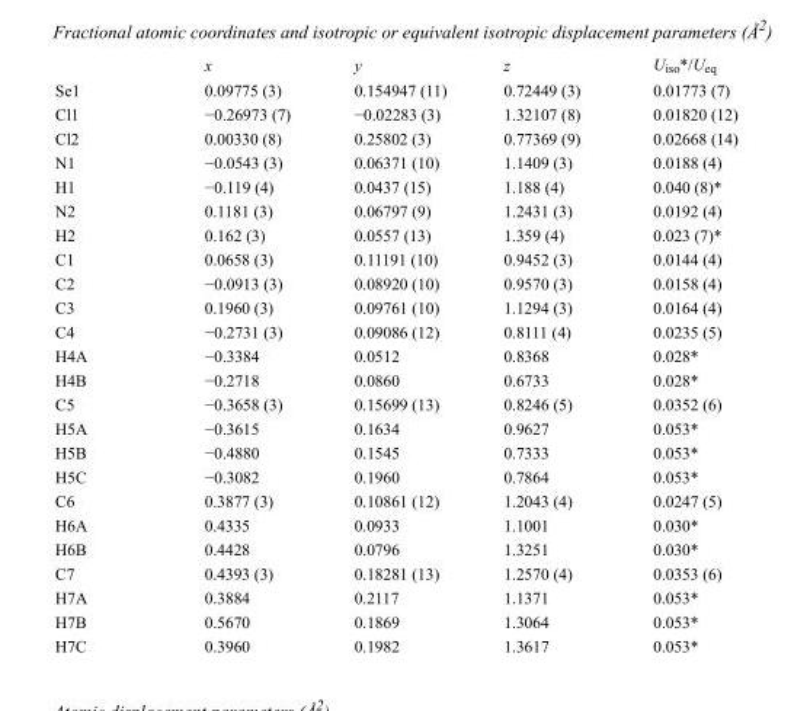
<table><thead><tr><td></td><td>x</td><td>y</td><td>z</td><td>U<sub>iso</sub>*/U<sub>eq</sub></td></tr></thead><tbody><tr><td>Se1</td><td>0.09775 (3)</td><td>0.154947 (11)</td><td>0.72449 (3)</td><td>0.01773 (7)</td></tr><tr><td>Cl1</td><td>−0.26973 (7)</td><td>−0.02283 (3)</td><td>1.32107 (8)</td><td>0.01820 (12)</td></tr><tr><td>Cl2</td><td>0.00330 (8)</td><td>0.25802 (3)</td><td>0.77369 (9)</td><td>0.02668 (14)</td></tr><tr><td>N1</td><td>−0.0543 (3)</td><td>0.06371 (10)</td><td>1.1409 (3)</td><td>0.0188 (4)</td></tr><tr><td>H1</td><td>−0.119 (4)</td><td>0.0437 (15)</td><td>1.188 (4)</td><td>0.040 (8)*</td></tr><tr><td>N2</td><td>0.1181 (3)</td><td>0.06797 (9)</td><td>1.2431 (3)</td><td>0.0192 (4)</td></tr><tr><td>H2</td><td>0.162 (3)</td><td>0.0557 (13)</td><td>1.359 (4)</td><td>0.023 (7)*</td></tr><tr><td>C1</td><td>0.0658 (3)</td><td>0.11191 (10)</td><td>0.9452 (3)</td><td>0.0144 (4)</td></tr><tr><td>C2</td><td>−0.0913 (3)</td><td>0.08920 (10)</td><td>0.9570 (3)</td><td>0.0158 (4)</td></tr><tr><td>C3</td><td>0.1960 (3)</td><td>0.09761 (10)</td><td>1.1294 (3)</td><td>0.0164 (4)</td></tr><tr><td>C4</td><td>−0.2731 (3)</td><td>0.09086 (12)</td><td>0.8111 (4)</td><td>0.0235 (5)</td></tr><tr><td>H4A</td><td>−0.3384</td><td>0.0512</td><td>0.8368</td><td>0.028*</td></tr><tr><td>H4B</td><td>−0.2718</td><td>0.0860</td><td>0.6733</td><td>0.028*</td></tr><tr><td>C5</td><td>−0.3658 (3)</td><td>0.15699 (13)</td><td>0.8246 (5)</td><td>0.0352 (6)</td></tr><tr><td>H5A</td><td>−0.3615</td><td>0.1634</td><td>0.9627</td><td>0.053*</td></tr><tr><td>H5B</td><td>−0.4880</td><td>0.1545</td><td>0.7333</td><td>0.053*</td></tr><tr><td>H5C</td><td>−0.3082</td><td>0.1960</td><td>0.7864</td><td>0.053*</td></tr><tr><td>C6</td><td>0.3877 (3)</td><td>0.10861 (12)</td><td>1.2043 (4)</td><td>0.0247 (5)</td></tr><tr><td>H6A</td><td>0.4335</td><td>0.0933</td><td>1.1001</td><td>0.030*</td></tr><tr><td>H6B</td><td>0.4428</td><td>0.0796</td><td>1.3251</td><td>0.030*</td></tr><tr><td>C7</td><td>0.4393 (3)</td><td>0.18281 (13)</td><td>1.2570 (4)</td><td>0.0353 (6)</td></tr><tr><td>H7A</td><td>0.3884</td><td>0.2117</td><td>1.1371</td><td>0.053*</td></tr><tr><td>H7B</td><td>0.5670</td><td>0.1869</td><td>1.3064</td><td>0.053*</td></tr><tr><td>H7C</td><td>0.3960</td><td>0.1982</td><td>1.3617</td><td>0.053*</td></tr></tbody></table>